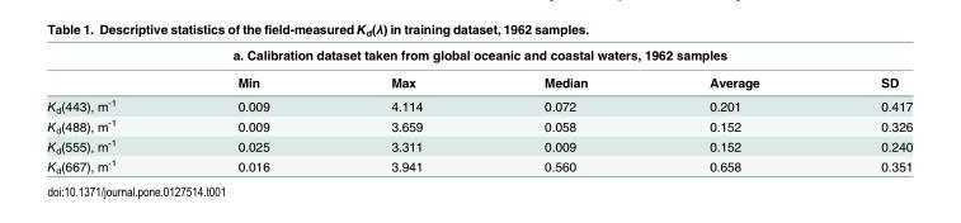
<table><thead><tr><td colspan="6">a. Calibration dataset taken from global oceanic and coastal waters, 1962 samples</td></tr><tr><td></td><td>Min</td><td>Max</td><td>Median</td><td>Average</td><td>SD</td></tr></thead><tbody><tr><td>K<sub>d</sub>(443), m<sup>-1</sup></td><td>0.009</td><td>4.114</td><td>0.072</td><td>0.201</td><td>0.417</td></tr><tr><td>K<sub>d</sub>(488), m<sup>-1</sup></td><td>0.009</td><td>3.659</td><td>0.058</td><td>0.152</td><td>0.326</td></tr><tr><td>K<sub>d</sub>(555), m<sup>-1</sup></td><td>0.025</td><td>3.311</td><td>0.009</td><td>0.152</td><td>0.240</td></tr><tr><td>K<sub>d</sub>(667), m<sup>-1</sup></td><td>0.016</td><td>3.941</td><td>0.560</td><td>0.658</td><td>0.351</td></tr></tbody></table>